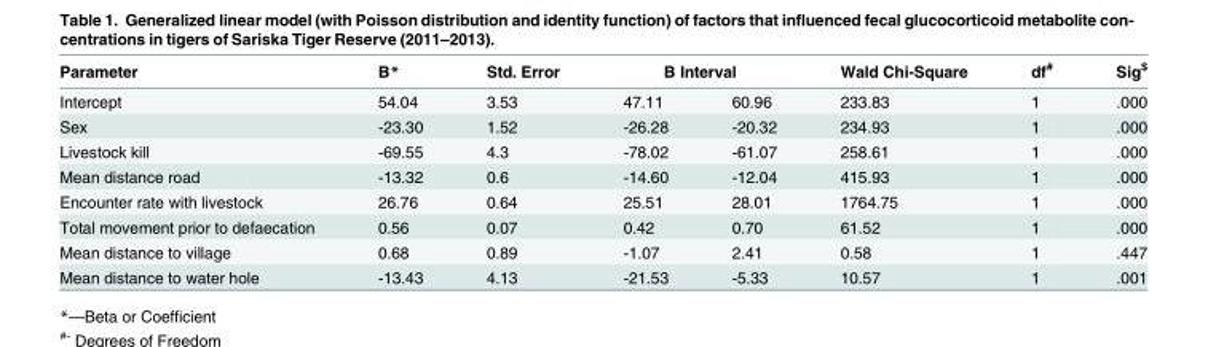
<table><thead><tr><td rowspan="2">Parameter Intercept</td><td rowspan="2">B* 54.04</td><td rowspan="2">Std. Error 3.53</td><td colspan="2">B Interval</td><td rowspan="2">Wald Chi-Square 233.83</td><td rowspan="2">df<sup>#</sup> 1</td><td rowspan="2">Sig<sup>$</sup> .000</td></tr><tr><td>47.11</td><td>60.96</td></tr></thead><tbody><tr><td>Sex</td><td>-23.30</td><td>1.52</td><td>-26.28</td><td>-20.32</td><td>234.93</td><td>1</td><td>.000</td></tr><tr><td>Livestock kill</td><td>-69.55</td><td>4.3</td><td>-78.02</td><td>-61.07</td><td>258.61</td><td>1</td><td>.000</td></tr><tr><td>Mean distance road</td><td>-13.32</td><td>0.6</td><td>-14.60</td><td>-12.04</td><td>415.93</td><td>1</td><td>.000</td></tr><tr><td>Encounter rate with livestock</td><td>26.76</td><td>0.64</td><td>25.51</td><td>28.01</td><td>1764.75</td><td>1</td><td>.000</td></tr><tr><td>Total movement prior to defaecation</td><td>0.56</td><td>0.07</td><td>0.42</td><td>0.70</td><td>61.52</td><td>1</td><td>.000</td></tr><tr><td>Mean distance to village</td><td>0.68</td><td>0.89</td><td>-1.07</td><td>2.41</td><td>0.58</td><td>1</td><td>.447</td></tr><tr><td>Mean distance to water hole</td><td>-13.43</td><td>4.13</td><td>-21.53</td><td>-5.33</td><td>10.57</td><td>1</td><td>.001</td></tr></tbody></table>